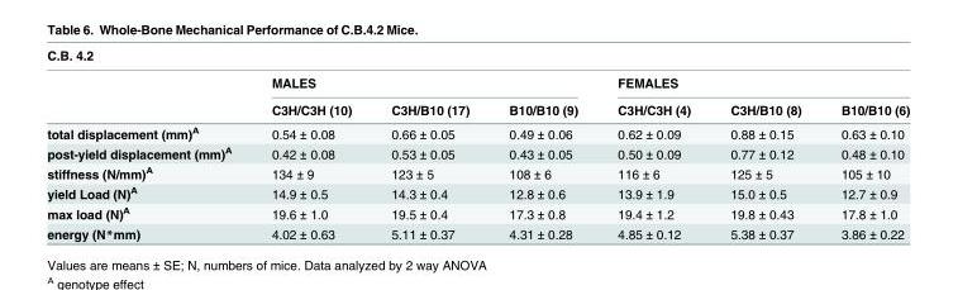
<table><thead><tr><td colspan="7">C.B. 4.2</td></tr><tr><td rowspan="2"></td><td colspan="3">MALES</td><td colspan="3">FEMALES</td></tr><tr><td>C3H/C3H (10)</td><td>C3H/B10 (17)</td><td>B10/B10 (9)</td><td>C3H/C3H (4)</td><td>C3H/B10 (8)</td><td>B10/B10 (6)</td></tr></thead><tbody><tr><td>total displacement (mm)<sup>A</sup></td><td>0.54 ± 0.08</td><td>0.66 ± 0.05</td><td>0.49 ± 0.06</td><td>0.62 ± 0.09</td><td>0.88 ± 0.15</td><td>0.63 ± 0.10</td></tr><tr><td>post-yield displacement (mm)<sup>A</sup></td><td>0.42 ± 0.08</td><td>0.53 ± 0.05</td><td>0.43 ± 0.05</td><td>0.50 ± 0.09</td><td>0.77 ± 0.12</td><td>0.48 ± 0.10</td></tr><tr><td>stiffness (N/mm)<sup>A</sup></td><td>134 ± 9</td><td>123 ± 5</td><td>108 ± 6</td><td>116 ± 6</td><td>125 ± 5</td><td>105 ± 10</td></tr><tr><td>yield Load (N)<sup>A</sup></td><td>14.9 ± 0.5</td><td>14.3 ± 0.4</td><td>12.8 ± 0.6</td><td>13.9 ± 1.9</td><td>15.0 ± 0.5</td><td>12.7 ± 0.9</td></tr><tr><td>max load (N)<sup>A</sup></td><td>19.6 ± 1.0</td><td>19.5 ± 0.4</td><td>17.3 ± 0.8</td><td>19.4 ± 1.2</td><td>19.8 ± 0.43</td><td>17.8 ± 1.0</td></tr><tr><td>energy (N*mm)</td><td>4.02 ± 0.63</td><td>5.11 ± 0.37</td><td>4.31 ± 0.28</td><td>4.85 ± 0.12</td><td>5.38 ± 0.37</td><td>3.86 ± 0.22</td></tr></tbody></table>